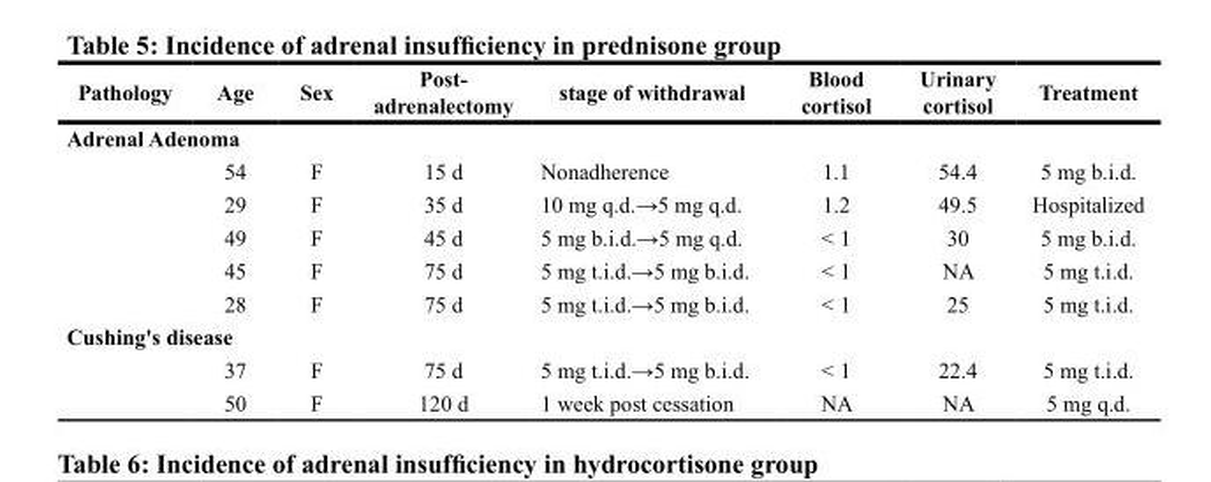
<table><thead><tr><td>Pathology</td><td>Age</td><td>Sex</td><td>Post- adrenalectomy</td><td>stage of withdrawal</td><td>Blood cortisol</td><td>Urinary cortisol</td><td>Treatment</td></tr></thead><tbody><tr><td colspan="8">Adrenal Adenoma</td></tr><tr><td></td><td>54</td><td>F</td><td>15 d</td><td>Nonadherence</td><td>1.1</td><td>54.4</td><td>5 mg b.i.d.</td></tr><tr><td></td><td>29</td><td>F</td><td>35 d</td><td>10 mg q.d.→5 mg q.d.</td><td>1.2</td><td>49.5</td><td>Hospitalized</td></tr><tr><td></td><td>49</td><td>F</td><td>45 d</td><td>5 mg b.i.d.→5 mg q.d.</td><td>&lt; 1</td><td>30</td><td>5 mg b.i.d.</td></tr><tr><td></td><td>45</td><td>F</td><td>75 d</td><td>5 mg t.i.d.→5 mg b.i.d.</td><td>&lt; 1</td><td>NA</td><td>5 mg t.i.d.</td></tr><tr><td></td><td>28</td><td>F</td><td>75 d</td><td>5 mg t.i.d.→5 mg b.i.d.</td><td>&lt; 1</td><td>25</td><td>5 mg t.i.d.</td></tr><tr><td colspan="8">Cushing&#x27;s disease</td></tr><tr><td></td><td>37</td><td>F</td><td>75 d</td><td>5 mg t.i.d.→5 mg b.i.d.</td><td>&lt; 1</td><td>22.4</td><td>5 mg t.i.d.</td></tr><tr><td></td><td>50</td><td>F</td><td>120 d</td><td>1 week post cessation</td><td>NA</td><td>NA</td><td>5 mg q.d.</td></tr></tbody></table>